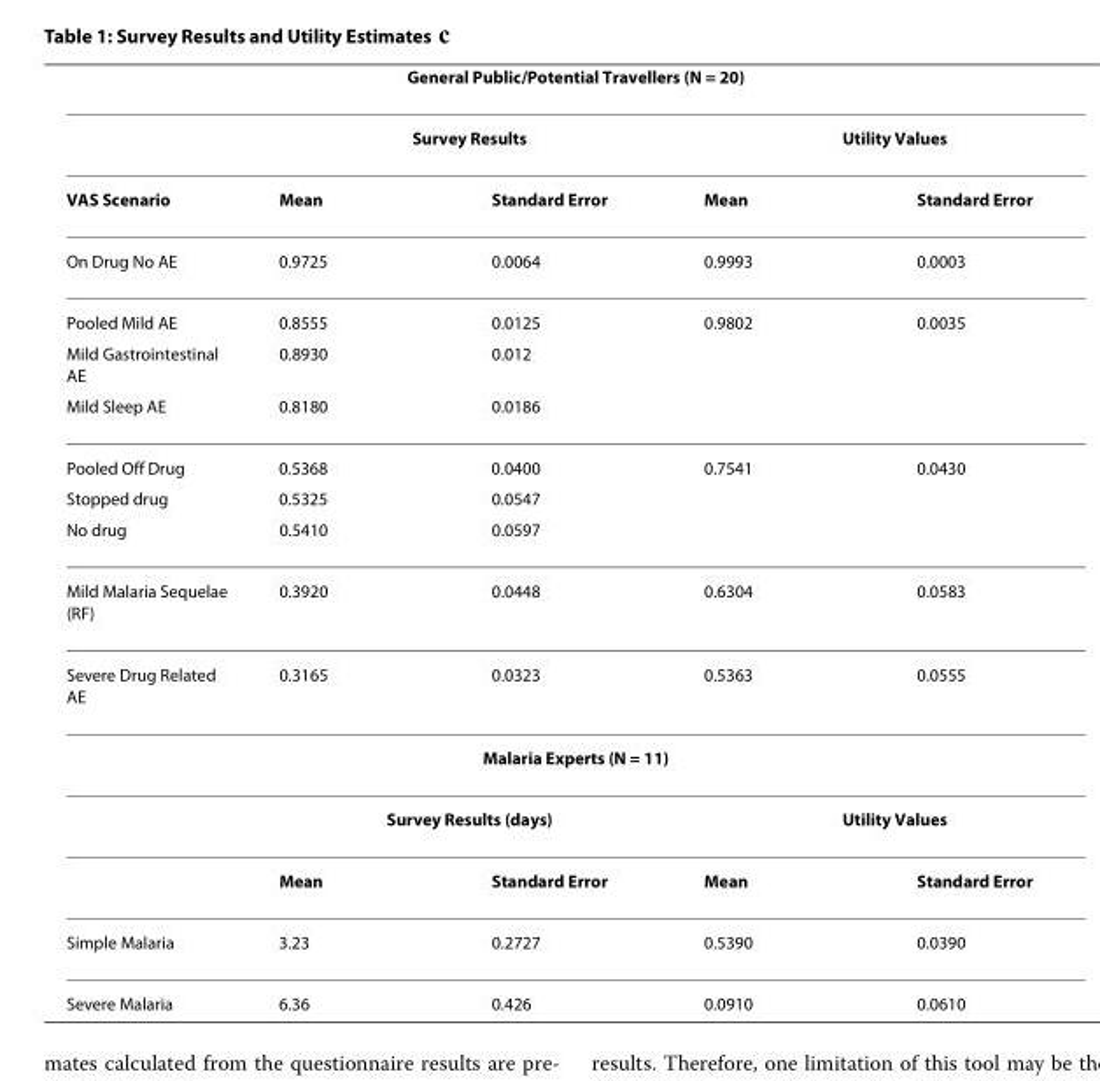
<table><thead><tr><td colspan="5">General Public/Potential Travellers (N = 20)</td></tr><tr><td rowspan="2">VAS Scenario</td><td colspan="2">Survey Results</td><td colspan="2">Utility Values</td></tr><tr><td>Mean</td><td>Standard Error</td><td>Mean</td><td>Standard Error</td></tr></thead><tbody><tr><td>On Drug No AE</td><td>0.9725</td><td>0.0064</td><td>0.9993</td><td>0.0003</td></tr><tr><td>Pooled Mild AE</td><td>0.8555</td><td>0.0125</td><td>0.9802</td><td>0.0035</td></tr><tr><td>Mild Gastrointestinal AE</td><td>0.8930</td><td>0.012</td><td></td><td></td></tr><tr><td>Mild Sleep AE</td><td>0.8180</td><td>0.0186</td><td></td><td></td></tr><tr><td>Pooled Off Drug</td><td>0.5368</td><td>0.0400</td><td>0.7541</td><td>0.0430</td></tr><tr><td>Stopped drug</td><td>0.5325</td><td>0.0547</td><td></td><td></td></tr><tr><td>No drug</td><td>0.5410</td><td>0.0597</td><td></td><td></td></tr><tr><td>Mild Malaria Sequelae (RF)</td><td>0.3920</td><td>0.0448</td><td>0.6304</td><td>0.0583</td></tr><tr><td>Severe Drug Related AE</td><td>0.3165</td><td>0.0323</td><td>0.5363</td><td>0.0555</td></tr><tr><td colspan="5">Malaria Experts (N = 11)</td></tr><tr><td></td><td colspan="2">Survey Results (days)</td><td colspan="2">Utility Values</td></tr><tr><td></td><td>Mean</td><td>Standard Error</td><td>Mean</td><td>Standard Error</td></tr><tr><td>Simple Malaria</td><td>3.23</td><td>0.2727</td><td>0.5390</td><td>0.0390</td></tr><tr><td>Severe Malaria</td><td>6.36</td><td>0.426</td><td>0.0910</td><td>0.0610</td></tr></tbody></table>